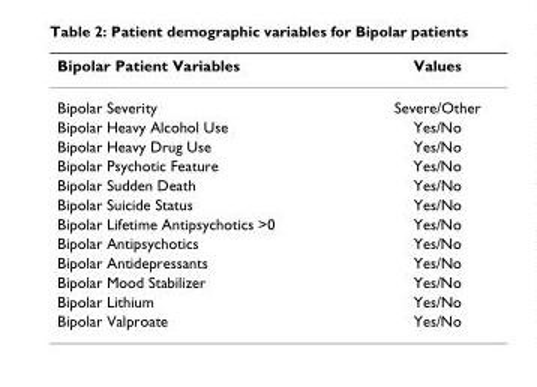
<table><thead><tr><td>Bipolar Patient Variables</td><td>Values</td></tr></thead><tbody><tr><td>Bipolar Severity</td><td>Severe/Other</td></tr><tr><td>Bipolar Heavy Alcohol Use</td><td>Yes/No</td></tr><tr><td>Bipolar Heavy Drug Use</td><td>Yes/No</td></tr><tr><td>Bipolar Psychotic Feature</td><td>Yes/No</td></tr><tr><td>Bipolar Sudden Death</td><td>Yes/No</td></tr><tr><td>Bipolar Suicide Status</td><td>Yes/No</td></tr><tr><td>Bipolar Lifetime Antipsychotics &gt;0</td><td>Yes/No</td></tr><tr><td>Bipolar Antipsychotics</td><td>Yes/No</td></tr><tr><td>Bipolar Antidepressants</td><td>Yes/No</td></tr><tr><td>Bipolar Mood Stabilizer</td><td>Yes/No</td></tr><tr><td>Bipolar Lithium</td><td>Yes/No</td></tr><tr><td>Bipolar Valproate</td><td>Yes/No</td></tr></tbody></table>